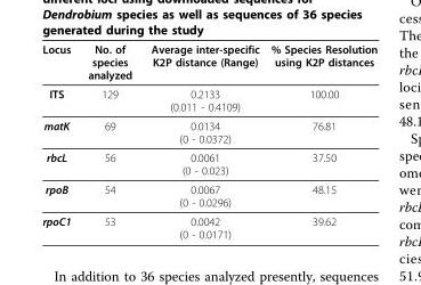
<table><thead><tr><td>Locus</td><td>No. of species analyzed</td><td>Average inter-specific K2P distance (Range)</td><td>% Species Resolution using K2P distances</td></tr></thead><tbody><tr><td>ITS</td><td>129</td><td>0.2133 (0.011 - 0.4109)</td><td>100.00</td></tr><tr><td>matK</td><td>69</td><td>0.0134 (0 - 0.0372)</td><td>76.81</td></tr><tr><td>rbcL</td><td>56</td><td>0.0061 (0 - 0.023)</td><td>37.50</td></tr><tr><td>rpoB</td><td>54</td><td>0.0067 (0 - 0.0296)</td><td>48.15</td></tr><tr><td>rpoC1</td><td>53</td><td>0.0042 (0 - 0.0171)</td><td>39.62</td></tr></tbody></table>